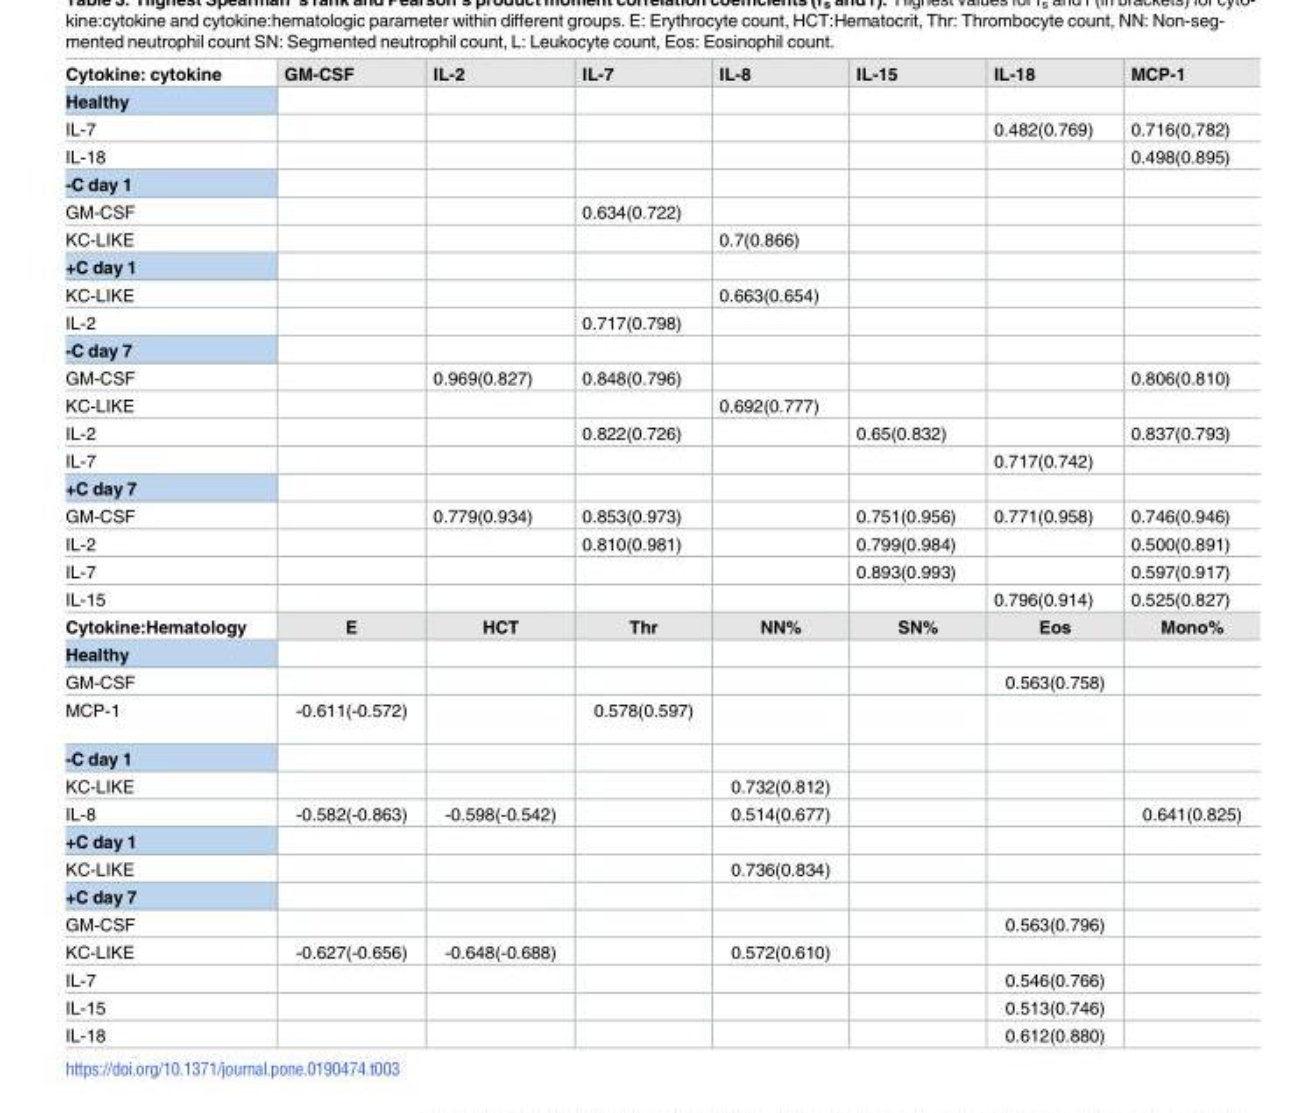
<table><tbody><tr><td>Cytokine: cytokine</td><td>GM-CSF</td><td>IL-2</td><td>IL-7</td><td>IL-8</td><td>IL-15</td><td>IL-18</td><td>MCP-1</td></tr><tr><td colspan="8">Healthy</td></tr><tr><td>IL-7</td><td></td><td></td><td></td><td></td><td></td><td>0.482(0.769)</td><td>0.716(0,782)</td></tr><tr><td>IL-18</td><td></td><td></td><td></td><td></td><td></td><td></td><td>0.498(0.895)</td></tr><tr><td colspan="8">-C day 1</td></tr><tr><td>GM-CSF</td><td></td><td></td><td>0.634(0.722)</td><td></td><td></td><td></td><td></td></tr><tr><td>KC-LIKE</td><td></td><td></td><td></td><td>0.7(0.866)</td><td></td><td></td><td></td></tr><tr><td colspan="8">+C day 1</td></tr><tr><td>KC-LIKE</td><td></td><td></td><td></td><td>0.663(0.654)</td><td></td><td></td><td></td></tr><tr><td>IL-2</td><td></td><td></td><td>0.717(0.798)</td><td></td><td></td><td></td><td></td></tr><tr><td colspan="8">-C day 7</td></tr><tr><td>GM-CSF</td><td></td><td>0.969(0.827)</td><td>0.848(0.796)</td><td></td><td></td><td></td><td>0.806(0.810)</td></tr><tr><td>KC-LIKE</td><td></td><td></td><td></td><td>0.692(0.777)</td><td></td><td></td><td></td></tr><tr><td>IL-2</td><td></td><td></td><td>0.822(0.726)</td><td></td><td>0.65(0.832)</td><td></td><td>0.837(0.793)</td></tr><tr><td>IL-7</td><td></td><td></td><td></td><td></td><td></td><td>0.717(0.742)</td><td></td></tr><tr><td colspan="8">+C day 7</td></tr><tr><td>GM-CSF</td><td></td><td>0.779(0.934)</td><td>0.853(0.973)</td><td></td><td>0.751(0.956)</td><td>0.771(0.958)</td><td>0.746(0.946)</td></tr><tr><td>IL-2</td><td></td><td></td><td>0.810(0.981)</td><td></td><td>0.799(0.984)</td><td></td><td>0.500(0.891)</td></tr><tr><td>IL-7</td><td></td><td></td><td></td><td></td><td>0.893(0.993)</td><td></td><td>0.597(0.917)</td></tr><tr><td>IL-15</td><td></td><td></td><td></td><td></td><td></td><td>0.796(0.914)</td><td>0.525(0.827)</td></tr><tr><td>Cytokine:Hematology</td><td>E</td><td>HCT</td><td>Thr</td><td>NN%</td><td>SN%</td><td>Eos</td><td>Mono%</td></tr><tr><td colspan="8">Healthy</td></tr><tr><td>GM-CSF</td><td></td><td></td><td></td><td></td><td></td><td>0.563(0.758)</td><td></td></tr><tr><td>MCP-1</td><td>-0.611(-0.572)</td><td></td><td>0.578(0.597)</td><td></td><td></td><td></td><td></td></tr><tr><td colspan="8">-C day 1</td></tr><tr><td>KC-LIKE</td><td></td><td></td><td></td><td>0.732(0.812)</td><td></td><td></td><td></td></tr><tr><td>IL-8</td><td>-0.582(-0.863)</td><td>-0.598(-0.542)</td><td></td><td>0.514(0.677)</td><td></td><td></td><td>0.641(0.825)</td></tr><tr><td colspan="8">+C day 1</td></tr><tr><td>KC-LIKE</td><td></td><td></td><td></td><td>0.736(0.834)</td><td></td><td></td><td></td></tr><tr><td colspan="8">+C day 7</td></tr><tr><td>GM-CSF</td><td></td><td></td><td></td><td></td><td></td><td>0.563(0.796)</td><td></td></tr><tr><td>KC-LIKE</td><td>-0.627(-0.656)</td><td>-0.648(-0.688)</td><td></td><td>0.572(0.610)</td><td></td><td></td><td></td></tr><tr><td>IL-7</td><td></td><td></td><td></td><td></td><td></td><td>0.546(0.766)</td><td></td></tr><tr><td>IL-15</td><td></td><td></td><td></td><td></td><td></td><td>0.513(0.746)</td><td></td></tr><tr><td>IL-18</td><td></td><td></td><td></td><td></td><td></td><td>0.612(0.880)</td><td></td></tr></tbody></table>